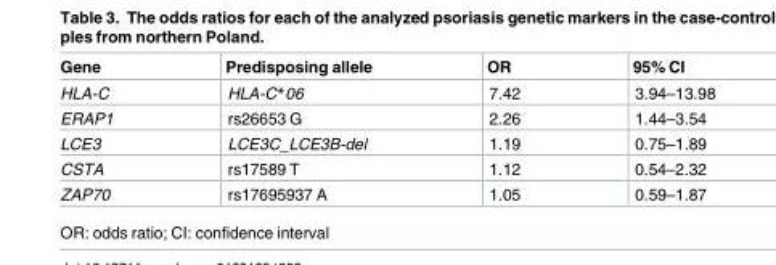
<table><thead><tr><td>Gene</td><td>Predisposing allele</td><td>OR</td><td>95% CI</td></tr></thead><tbody><tr><td>HLA-C</td><td>HLA-C*06</td><td>7.42</td><td>3.94–13.98</td></tr><tr><td>ERAP1</td><td>rs26653 G</td><td>2.26</td><td>1.44–3.54</td></tr><tr><td>LCE3</td><td>LCE3C_LCE3B-del</td><td>1.19</td><td>0.75–1.89</td></tr><tr><td>CSTA</td><td>rs17589 T</td><td>1.12</td><td>0.54–2.32</td></tr><tr><td>ZAP70</td><td>rs17695937 A</td><td>1.05</td><td>0.59–1.87</td></tr></tbody></table>